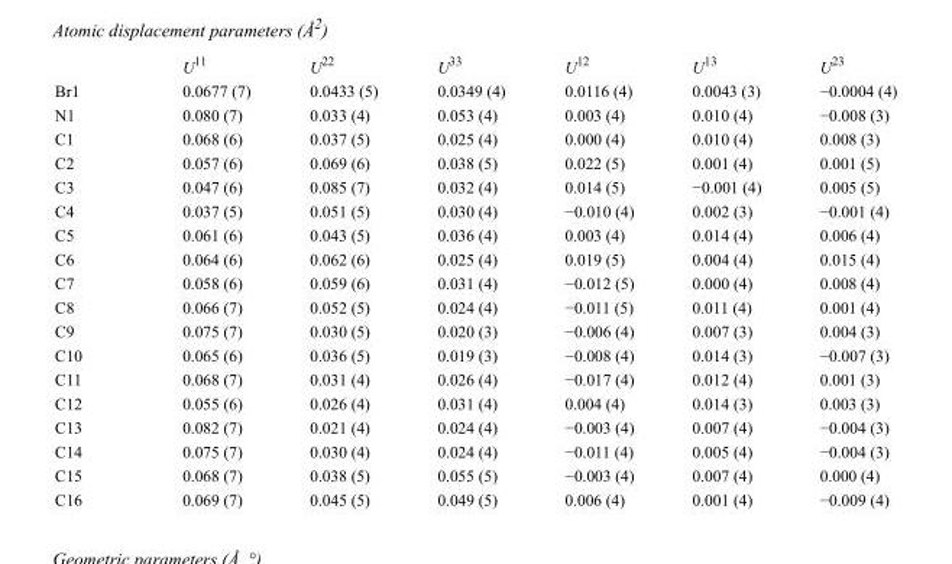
<table><thead><tr><td></td><td>U<sup>11</sup></td><td>U<sup>22</sup></td><td>U<sup>33</sup></td><td>U<sup>12</sup></td><td>U<sup>13</sup></td><td>U<sup>23</sup></td></tr></thead><tbody><tr><td>Br1</td><td>0.0677 (7)</td><td>0.0433 (5)</td><td>0.0349 (4)</td><td>0.0116 (4)</td><td>0.0043 (3)</td><td>−0.0004 (4)</td></tr><tr><td>N1</td><td>0.080 (7)</td><td>0.033 (4)</td><td>0.053 (4)</td><td>0.003 (4)</td><td>0.010 (4)</td><td>−0.008 (3)</td></tr><tr><td>C1</td><td>0.068 (6)</td><td>0.037 (5)</td><td>0.025 (4)</td><td>0.000 (4)</td><td>0.010 (4)</td><td>0.008 (3)</td></tr><tr><td>C2</td><td>0.057 (6)</td><td>0.069 (6)</td><td>0.038 (5)</td><td>0.022 (5)</td><td>0.001 (4)</td><td>0.001 (5)</td></tr><tr><td>C3</td><td>0.047 (6)</td><td>0.085 (7)</td><td>0.032 (4)</td><td>0.014 (5)</td><td>−0.001 (4)</td><td>0.005 (5)</td></tr><tr><td>C4</td><td>0.037 (5)</td><td>0.051 (5)</td><td>0.030 (4)</td><td>−0.010 (4)</td><td>0.002 (3)</td><td>−0.001 (4)</td></tr><tr><td>C5</td><td>0.061 (6)</td><td>0.043 (5)</td><td>0.036 (4)</td><td>0.003 (4)</td><td>0.014 (4)</td><td>0.006 (4)</td></tr><tr><td>C6</td><td>0.064 (6)</td><td>0.062 (6)</td><td>0.025 (4)</td><td>0.019 (5)</td><td>0.004 (4)</td><td>0.015 (4)</td></tr><tr><td>C7</td><td>0.058 (6)</td><td>0.059 (6)</td><td>0.031 (4)</td><td>−0.012 (5)</td><td>0.000 (4)</td><td>0.008 (4)</td></tr><tr><td>C8</td><td>0.066 (7)</td><td>0.052 (5)</td><td>0.024 (4)</td><td>−0.011 (5)</td><td>0.011 (4)</td><td>0.001 (4)</td></tr><tr><td>C9</td><td>0.075 (7)</td><td>0.030 (5)</td><td>0.020 (3)</td><td>−0.006 (4)</td><td>0.007 (3)</td><td>0.004 (3)</td></tr><tr><td>C10</td><td>0.065 (6)</td><td>0.036 (5)</td><td>0.019 (3)</td><td>−0.008 (4)</td><td>0.014 (3)</td><td>−0.007 (3)</td></tr><tr><td>C11</td><td>0.068 (7)</td><td>0.031 (4)</td><td>0.026 (4)</td><td>−0.017 (4)</td><td>0.012 (4)</td><td>0.001 (3)</td></tr><tr><td>C12</td><td>0.055 (6)</td><td>0.026 (4)</td><td>0.031 (4)</td><td>0.004 (4)</td><td>0.014 (3)</td><td>0.003 (3)</td></tr><tr><td>C13</td><td>0.082 (7)</td><td>0.021 (4)</td><td>0.024 (4)</td><td>−0.003 (4)</td><td>0.007 (4)</td><td>−0.004 (3)</td></tr><tr><td>C14</td><td>0.075 (7)</td><td>0.030 (4)</td><td>0.024 (4)</td><td>−0.011 (4)</td><td>0.005 (4)</td><td>−0.004 (3)</td></tr><tr><td>C15</td><td>0.068 (7)</td><td>0.038 (5)</td><td>0.055 (5)</td><td>−0.003 (4)</td><td>0.007 (4)</td><td>0.000 (4)</td></tr><tr><td>C16</td><td>0.069 (7)</td><td>0.045 (5)</td><td>0.049 (5)</td><td>0.006 (4)</td><td>0.001 (4)</td><td>−0.009 (4)</td></tr></tbody></table>